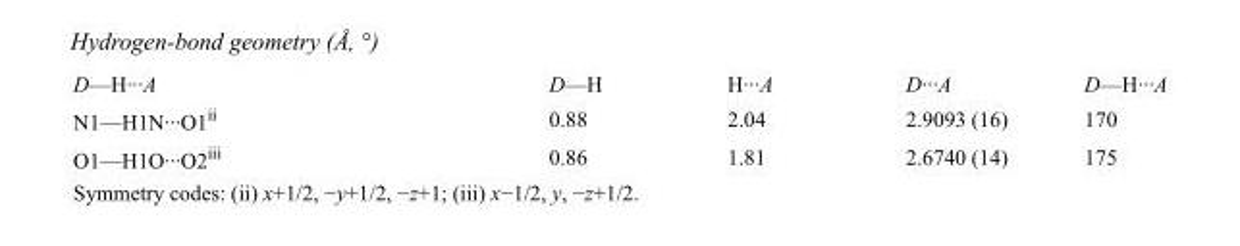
<table><tbody><tr><td>D—H···A</td><td>D—H</td><td>H···A</td><td>D···A</td><td>D—H···A</td></tr><tr><td>N1—H1N···O1<sup>ii</sup></td><td>0.88</td><td>2.04</td><td>2.9093 (16)</td><td>170</td></tr><tr><td>O1—H1O···O2<sup>iii</sup></td><td>0.86</td><td>1.81</td><td>2.6740 (14)</td><td>175</td></tr></tbody></table>